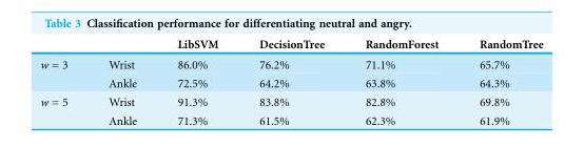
<table><thead><tr><td></td><td></td><td>LibSVM</td><td>DecisionTree</td><td>RandomForest</td><td>RandomTree</td></tr></thead><tbody><tr><td rowspan="2">w = 3</td><td>Wrist</td><td>86.0%</td><td>76.2%</td><td>71.1%</td><td>65.7%</td></tr><tr><td>Ankle</td><td>72.5%</td><td>64.2%</td><td>63.8%</td><td>64.3%</td></tr><tr><td rowspan="2">w = 5</td><td>Wrist</td><td>91.3%</td><td>83.8%</td><td>82.8%</td><td>69.8%</td></tr><tr><td>Ankle</td><td>71.3%</td><td>61.5%</td><td>62.3%</td><td>61.9%</td></tr></tbody></table>